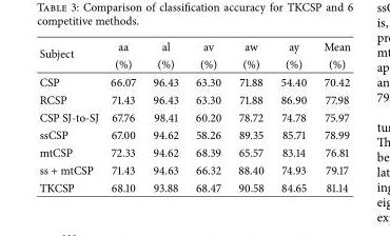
<table><thead><tr><td rowspan="2">Subject</td><td rowspan="2">aa (%)</td><td rowspan="2">al (%)</td><td rowspan="2">av (%)</td><td rowspan="2">aw (%)</td><td rowspan="2">ay (%)</td><td rowspan="2">Mean (%)</td></tr><tr></tr></thead><tbody><tr><td>CSP</td><td>66.07</td><td>96.43</td><td>63.30</td><td>71.88</td><td>54.40</td><td>70.42</td></tr><tr><td>RCSP</td><td>71.43</td><td>96.43</td><td>63.30</td><td>71.88</td><td>86.90</td><td>77.98</td></tr><tr><td>CSP SJ-to-SJ</td><td>67.76</td><td>98.41</td><td>60.20</td><td>78.72</td><td>74.78</td><td>75.97</td></tr><tr><td>ssCSP</td><td>67.00</td><td>94.62</td><td>58.26</td><td>89.35</td><td>85.71</td><td>78.99</td></tr><tr><td>mtCSP</td><td>72.33</td><td>94.62</td><td>68.39</td><td>65.57</td><td>83.14</td><td>76.81</td></tr><tr><td>ss + mtCSP</td><td>71.43</td><td>94.63</td><td>66.32</td><td>88.40</td><td>74.93</td><td>79.17</td></tr><tr><td>TKCSP</td><td>68.10</td><td>93.88</td><td>68.47</td><td>90.58</td><td>84.65</td><td>81.14</td></tr></tbody></table>